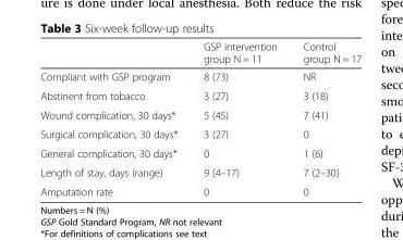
<table><thead><tr><td></td><td>GSP intervention group N = 11</td><td>Control group N = 17</td></tr></thead><tbody><tr><td>Compliant with GSP program</td><td>8 (73)</td><td>NR</td></tr><tr><td>Abstinent from tobacco</td><td>3 (27)</td><td>3 (18)</td></tr><tr><td>Wound complication, 30 days*</td><td>5 (45)</td><td>7 (41)</td></tr><tr><td>Surgical complication, 30 days*</td><td>3 (27)</td><td>0</td></tr><tr><td>General complication, 30 days*</td><td>0</td><td>1 (6)</td></tr><tr><td>Length of stay, days (range)</td><td>9 (4–17)</td><td>7 (2–30)</td></tr><tr><td>Amputation rate</td><td>0</td><td>0</td></tr></tbody></table>